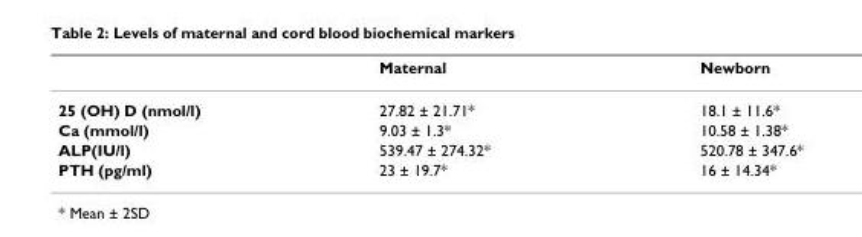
<table><thead><tr><td></td><td>Maternal</td><td>Newborn</td></tr></thead><tbody><tr><td>25 (OH) D (nmol/l)</td><td>27.82 ± 21.71*</td><td>18.1 ± 11.6*</td></tr><tr><td>Ca (mmol/l)</td><td>9.03 ± 1.3*</td><td>10.58 ± 1.38*</td></tr><tr><td>ALP(IU/l)</td><td>539.47 ± 274.32*</td><td>520.78 ± 347.6*</td></tr><tr><td>PTH (pg/ml)</td><td>23 ± 19.7*</td><td>16 ± 14.34*</td></tr></tbody></table>